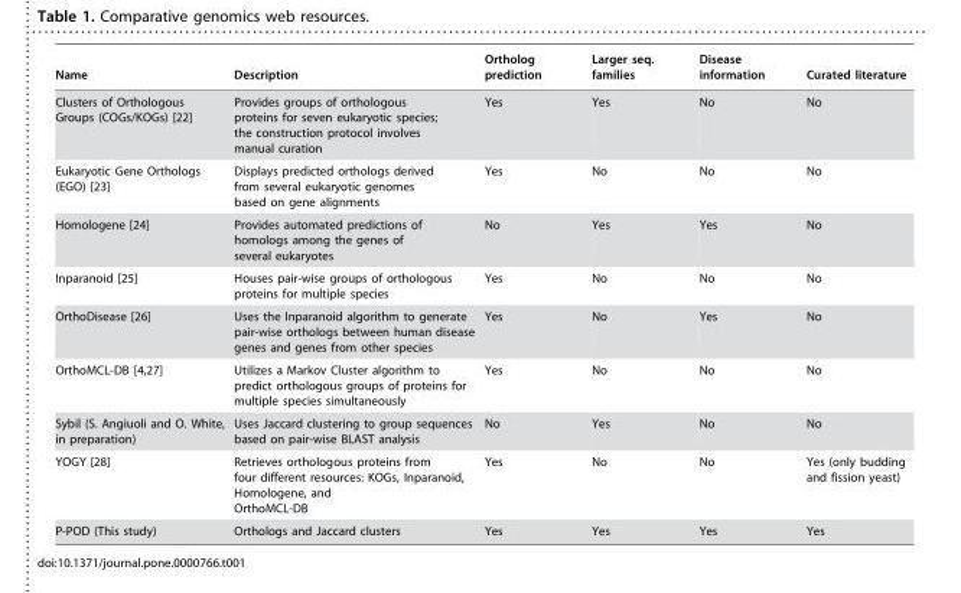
<table><thead><tr><td>Name</td><td>Description</td><td>Ortholog prediction</td><td>Larger seq. families</td><td>Disease information</td><td>Curated literature</td></tr></thead><tbody><tr><td>Clusters of Orthologous Groups (COGs/KOGs) [22]</td><td>Provides groups of orthologous proteins for seven eukaryotic species; the construction protocol involves manual curation</td><td>Yes</td><td>Yes</td><td>No</td><td>No</td></tr><tr><td>Eukaryotic Gene Orthologs (EGO) [23]</td><td>Displays predicted orthologs derived from several eukaryotic genomes based on gene alignments</td><td>Yes</td><td>No</td><td>No</td><td>No</td></tr><tr><td>Homologene [24]</td><td>Provides automated predictions of homologs among the genes of several eukaryotes</td><td>No</td><td>Yes</td><td>Yes</td><td>No</td></tr><tr><td>Inparanoid [25]</td><td>Houses pair-wise groups of orthologous proteins for multiple species</td><td>Yes</td><td>No</td><td>No</td><td>No</td></tr><tr><td>OrthoDisease [26]</td><td>Uses the Inparanoid algorithm to generate pair-wise orthologs between human disease genes and genes from other species</td><td>Yes</td><td>No</td><td>Yes</td><td>No</td></tr><tr><td>OrthoMCL-DB [4,27]</td><td>Utilizes a Markov Cluster algorithm to predict orthologous groups of proteins for multiple species simultaneously</td><td>Yes</td><td>No</td><td>No</td><td>No</td></tr><tr><td>Sybil (S. Angiuoli and O. White, in preparation)</td><td>Uses Jaccard clustering to group sequences based on pair-wise BLAST analysis</td><td>No</td><td>Yes</td><td>No</td><td>No</td></tr><tr><td>YOGY [28]</td><td>Retrieves orthologous proteins from four different resources: KOGs, Inparanoid, Homologene, and OrthoMCL-DB</td><td>Yes</td><td>No</td><td>No</td><td>Yes (only budding and fission yeast)</td></tr><tr><td>P-POD (This study)</td><td>Orthologs and Jaccard clusters</td><td>Yes</td><td>Yes</td><td>Yes</td><td>Yes</td></tr></tbody></table>